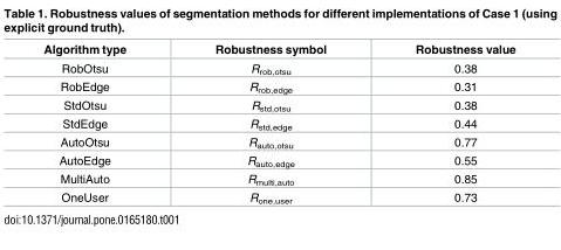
<table><thead><tr><td>Algorithm type</td><td>Robustness symbol</td><td>Robustness value</td></tr></thead><tbody><tr><td>RobOtsu</td><td>R<sub>rob,otsu</sub></td><td>0.38</td></tr><tr><td>RobEdge</td><td>R<sub>rob,edge</sub></td><td>0.31</td></tr><tr><td>StdOtsu</td><td>R<sub>std,otsu</sub></td><td>0.38</td></tr><tr><td>StdEdge</td><td>R<sub>std,edge</sub></td><td>0.44</td></tr><tr><td>AutoOtsu</td><td>R<sub>auto,otsu</sub></td><td>0.77</td></tr><tr><td>AutoEdge</td><td>R<sub>auto,edge</sub></td><td>0.55</td></tr><tr><td>MultiAuto</td><td>R<sub>multi,auto</sub></td><td>0.85</td></tr><tr><td>OneUser</td><td>R<sub>one,user</sub></td><td>0.73</td></tr></tbody></table>